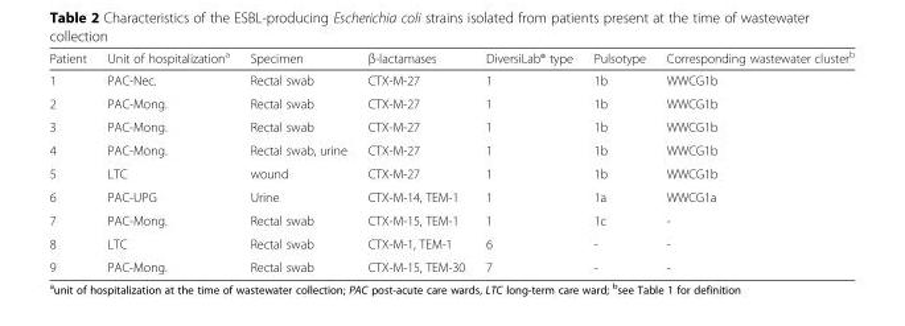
<table><thead><tr><td>Patient</td><td>Unit of hospitalization<sup>a</sup></td><td>Specimen</td><td>β-lactamases</td><td>DiversiLab® type</td><td>Pulsotype</td><td>Corresponding wastewater cluster<sup>b</sup></td></tr></thead><tbody><tr><td>1</td><td>PAC-Nec.</td><td>Rectal swab</td><td>CTX-M-27</td><td>1</td><td>1b</td><td>WWCG1b</td></tr><tr><td>2</td><td>PAC-Mong.</td><td>Rectal swab</td><td>CTX-M-27</td><td>1</td><td>1b</td><td>WWCG1b</td></tr><tr><td>3</td><td>PAC-Mong.</td><td>Rectal swab</td><td>CTX-M-27</td><td>1</td><td>1b</td><td>WWCG1b</td></tr><tr><td>4</td><td>PAC-Mong.</td><td>Rectal swab, urine</td><td>CTX-M-27</td><td>1</td><td>1b</td><td>WWCG1b</td></tr><tr><td>5</td><td>LTC</td><td>wound</td><td>CTX-M-27</td><td>1</td><td>1b</td><td>WWCG1b</td></tr><tr><td>6</td><td>PAC-UPG</td><td>Urine</td><td>CTX-M-14, TEM-1</td><td>1</td><td>1a</td><td>WWCG1a</td></tr><tr><td>7</td><td>PAC-Mong.</td><td>Rectal swab</td><td>CTX-M-15, TEM-1</td><td>1</td><td>1c</td><td>-</td></tr><tr><td>8</td><td>LTC</td><td>Rectal swab</td><td>CTX-M-1, TEM-1</td><td>6</td><td>-</td><td>-</td></tr><tr><td>9</td><td>PAC-Mong.</td><td>Rectal swab</td><td>CTX-M-15, TEM-30</td><td>7</td><td>-</td><td>-</td></tr></tbody></table>